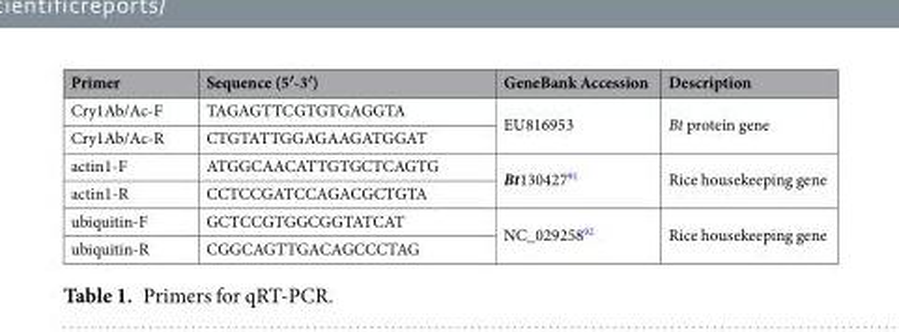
<table><thead><tr><td>Primer</td><td>Sequence (5′-3′)</td><td>GeneBank Accession</td><td>Description</td></tr></thead><tbody><tr><td>Cry1Ab/Ac-F</td><td>TAGAGTTCGTGTGAGGTA</td><td rowspan="2">EU816953</td><td rowspan="2">Bt protein gene</td></tr><tr><td>Cry1Ab/Ac-R</td><td>CTGTATTGGAGAAGATGGAT</td></tr><tr><td>actin1-F</td><td>ATGGCAACATTGTGCTCAGTG</td><td rowspan="2">Bt130427<sup>91</sup></td><td rowspan="2">Rice housekeeping gene</td></tr><tr><td>actin1-R</td><td>CCTCCGATCCAGACGCTGTA</td></tr><tr><td>ubiquitin-F</td><td>GCTCCGTGGCGGTATCAT</td><td rowspan="2">NC_029258<sup>92</sup></td><td rowspan="2">Rice housekeeping gene</td></tr><tr><td>ubiquitin-R</td><td>CGGCAGTTGACAGCCCTAG</td></tr></tbody></table>